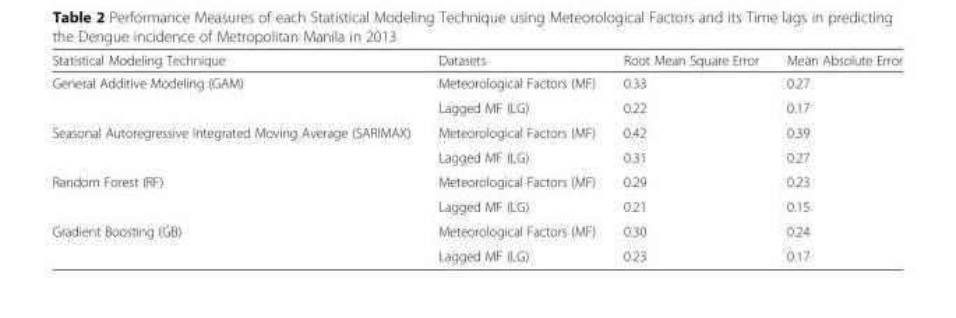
<table><thead><tr><td>Statistical Modeling Technique</td><td>Datasets</td><td>Root Mean Square Error</td><td>Mean Absolute Error</td></tr></thead><tbody><tr><td rowspan="2">General Additive Modeling (GAM)</td><td>Meteorological Factors (MF)</td><td>0.33</td><td>0.27</td></tr><tr><td>Lagged MF (LG)</td><td>0.22</td><td>0.17</td></tr><tr><td rowspan="2">Seasonal Autoregressive Integrated Moving Average (SARIMAX)</td><td>Meteorological Factors (MF)</td><td>0.42</td><td>0.39</td></tr><tr><td>Lagged MF (LG)</td><td>0.31</td><td>0.27</td></tr><tr><td rowspan="2">Random Forest (RF)</td><td>Meteorological Factors (MF)</td><td>0.29</td><td>0.23</td></tr><tr><td>Lagged MF (LG)</td><td>0.21</td><td>0.15</td></tr><tr><td rowspan="2">Gradient Boosting (GB)</td><td>Meteorological Factors (MF)</td><td>0.30</td><td>0.24</td></tr><tr><td>Lagged MF (LG)</td><td>0.23</td><td>0.17</td></tr></tbody></table>